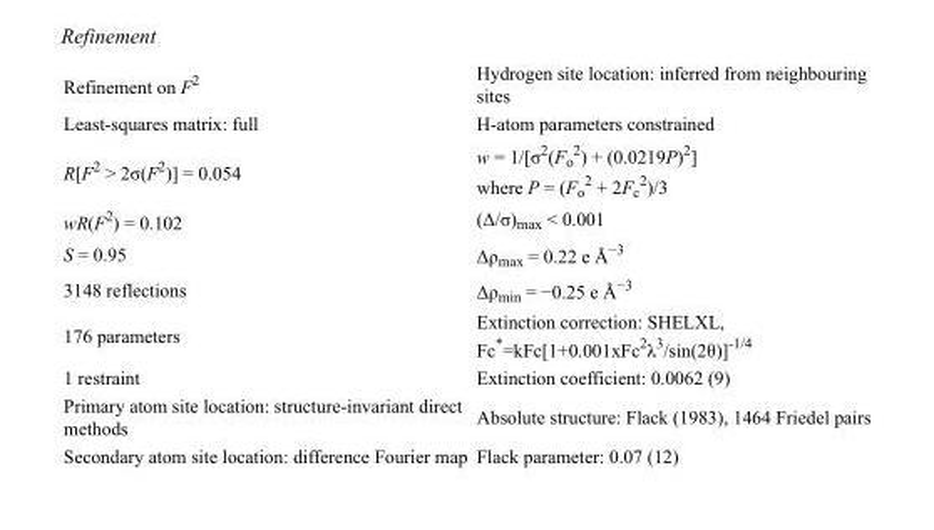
<table><tbody><tr><td>Refinement on F<sup>2</sup></td><td>Hydrogen site location: inferred from neighbouring sites</td></tr><tr><td>Least-squares matrix: full</td><td>H-atom parameters constrained</td></tr><tr><td>R[F<sup>2</sup> &gt; 2σ(F<sup>2</sup>)] = 0.054</td><td>w = 1/[σ<sup>2</sup>(F<sub>o</sub> <sup>2</sup>) + (0.0219P)<sup>2</sup>] where P = (F<sub>o</sub> <sup>2</sup> + 2F<sub>c</sub> <sup>2</sup>)/3</td></tr><tr><td>wR(F<sup>2</sup>) = 0.102</td><td>(Δ/σ)<sub>max</sub> &lt; 0.001</td></tr><tr><td>S = 0.95</td><td>Δρ<sub>max</sub> = 0.22 e Å<sup>−3</sup></td></tr><tr><td>3148 reflections</td><td>Δρ<sub>min</sub> = −0.25 e Å<sup>−3</sup></td></tr><tr><td>176 parameters</td><td>Extinction correction: SHELXL, Fc*=kFc[1+0.001xFc<sup>2</sup>λ<sup>3</sup>/sin(2θ)]<sup>-1/4</sup></td></tr><tr><td>1 restraint</td><td>Extinction coefficient: 0.0062 (9)</td></tr><tr><td>Primary atom site location: structure-invariant direct methods</td><td>Absolute structure: Flack (1983), 1464 Friedel pairs</td></tr><tr><td>Secondary atom site location: difference Fourier map</td><td>Flack parameter: 0.07 (12)</td></tr></tbody></table>